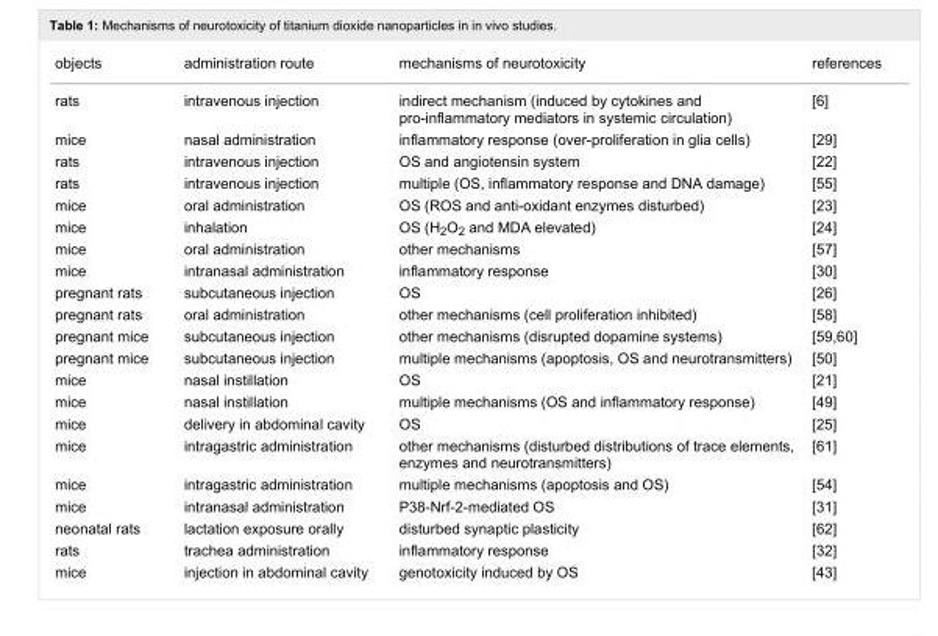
<table><tbody><tr><td>objects</td><td>administration route</td><td>mechanisms of neurotoxicity</td><td>references</td></tr><tr><td>rats</td><td>intravenous injection</td><td>indirect mechanism (induced by cytokines and pro-inflammatory mediators in systemic circulation)</td><td>[6]</td></tr><tr><td>mice</td><td>nasal administration</td><td>inflammatory response (over-proliferation in glia cells)</td><td>[29]</td></tr><tr><td>rats</td><td>intravenous injection</td><td>OS and angiotensin system</td><td>[22]</td></tr><tr><td>rats</td><td>intravenous injection</td><td>multiple (OS, inflammatory response and DNA damage)</td><td>[55]</td></tr><tr><td>mice</td><td>oral administration</td><td>OS (ROS and anti-oxidant enzymes disturbed)</td><td>[23]</td></tr><tr><td>mice</td><td>inhalation</td><td>OS (H<sub>2</sub>O<sub>2</sub> and MDA elevated)</td><td>[24]</td></tr><tr><td>mice</td><td>oral administration</td><td>other mechanisms</td><td>[57]</td></tr><tr><td>mice</td><td>intranasal administration</td><td>inflammatory response</td><td>[30]</td></tr><tr><td>pregnant rats</td><td>subcutaneous injection</td><td>OS</td><td>[26]</td></tr><tr><td>pregnant rats</td><td>oral administration</td><td>other mechanisms (cell proliferation inhibited)</td><td>[58]</td></tr><tr><td>pregnant mice</td><td>subcutaneous injection</td><td>other mechanisms (disrupted dopamine systems)</td><td>[59–60]</td></tr><tr><td>pregnant mice</td><td>subcutaneous injection</td><td>multiple mechanisms (apoptosis, OS and neurotransmitters)</td><td>[50]</td></tr><tr><td>mice</td><td>nasal instillation</td><td>OS</td><td>[21]</td></tr><tr><td>mice</td><td>nasal instillation</td><td>multiple mechanisms (OS and inflammatory response)</td><td>[49]</td></tr><tr><td>mice</td><td>delivery in abdominal cavity</td><td>OS</td><td>[25]</td></tr><tr><td>mice</td><td>intragastric administration</td><td>other mechanisms (disturbed distributions of trace elements, enzymes and neurotransmitters)</td><td>[61]</td></tr><tr><td>mice</td><td>intragastric administration</td><td>multiple mechanisms (apoptosis and OS)</td><td>[54]</td></tr><tr><td>mice</td><td>intranasal administration</td><td>P38-Nrf-2-mediated OS</td><td>[31]</td></tr><tr><td>neonatal rats</td><td>lactation exposure orally</td><td>disturbed synaptic plasticity</td><td>[62]</td></tr><tr><td>rats</td><td>trachea administration</td><td>inflammatory response</td><td>[32]</td></tr><tr><td>mice</td><td>injection in abdominal cavity</td><td>genotoxicity induced by OS</td><td>[43]</td></tr></tbody></table>